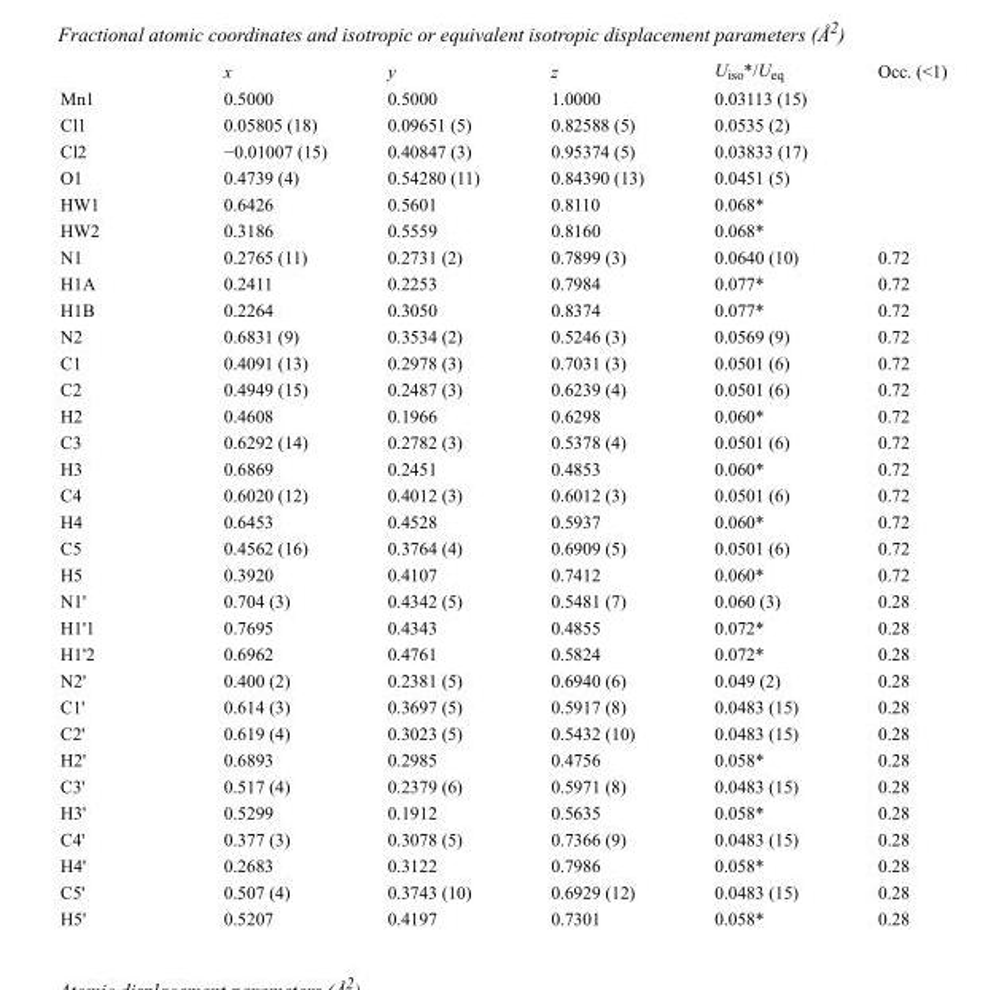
<table><thead><tr><td></td><td>x</td><td>y</td><td>z</td><td>U<sub>iso</sub>*/U<sub>eq</sub></td><td>Occ. (&lt;1)</td></tr></thead><tbody><tr><td>Mn1</td><td>0.5000</td><td>0.5000</td><td>1.0000</td><td>0.03113 (15)</td><td></td></tr><tr><td>Cl1</td><td>0.05805 (18)</td><td>0.09651 (5)</td><td>0.82588 (5)</td><td>0.0535 (2)</td><td></td></tr><tr><td>Cl2</td><td>−0.01007 (15)</td><td>0.40847 (3)</td><td>0.95374 (5)</td><td>0.03833 (17)</td><td></td></tr><tr><td>O1</td><td>0.4739 (4)</td><td>0.54280 (11)</td><td>0.84390 (13)</td><td>0.0451 (5)</td><td></td></tr><tr><td>HW1</td><td>0.6426</td><td>0.5601</td><td>0.8110</td><td>0.068*</td><td></td></tr><tr><td>HW2</td><td>0.3186</td><td>0.5559</td><td>0.8160</td><td>0.068*</td><td></td></tr><tr><td>N1</td><td>0.2765 (11)</td><td>0.2731 (2)</td><td>0.7899 (3)</td><td>0.0640 (10)</td><td>0.72</td></tr><tr><td>H1A</td><td>0.2411</td><td>0.2253</td><td>0.7984</td><td>0.077*</td><td>0.72</td></tr><tr><td>H1B</td><td>0.2264</td><td>0.3050</td><td>0.8374</td><td>0.077*</td><td>0.72</td></tr><tr><td>N2</td><td>0.6831 (9)</td><td>0.3534 (2)</td><td>0.5246 (3)</td><td>0.0569 (9)</td><td>0.72</td></tr><tr><td>C1</td><td>0.4091 (13)</td><td>0.2978 (3)</td><td>0.7031 (3)</td><td>0.0501 (6)</td><td>0.72</td></tr><tr><td>C2</td><td>0.4949 (15)</td><td>0.2487 (3)</td><td>0.6239 (4)</td><td>0.0501 (6)</td><td>0.72</td></tr><tr><td>H2</td><td>0.4608</td><td>0.1966</td><td>0.6298</td><td>0.060*</td><td>0.72</td></tr><tr><td>C3</td><td>0.6292 (14)</td><td>0.2782 (3)</td><td>0.5378 (4)</td><td>0.0501 (6)</td><td>0.72</td></tr><tr><td>H3</td><td>0.6869</td><td>0.2451</td><td>0.4853</td><td>0.060*</td><td>0.72</td></tr><tr><td>C4</td><td>0.6020 (12)</td><td>0.4012 (3)</td><td>0.6012 (3)</td><td>0.0501 (6)</td><td>0.72</td></tr><tr><td>H4</td><td>0.6453</td><td>0.4528</td><td>0.5937</td><td>0.060*</td><td>0.72</td></tr><tr><td>C5</td><td>0.4562 (16)</td><td>0.3764 (4)</td><td>0.6909 (5)</td><td>0.0501 (6)</td><td>0.72</td></tr><tr><td>H5</td><td>0.3920</td><td>0.4107</td><td>0.7412</td><td>0.060*</td><td>0.72</td></tr><tr><td>N1&#x27;</td><td>0.704 (3)</td><td>0.4342 (5)</td><td>0.5481 (7)</td><td>0.060 (3)</td><td>0.28</td></tr><tr><td>H1&#x27;1</td><td>0.7695</td><td>0.4343</td><td>0.4855</td><td>0.072*</td><td>0.28</td></tr><tr><td>H1&#x27;2</td><td>0.6962</td><td>0.4761</td><td>0.5824</td><td>0.072*</td><td>0.28</td></tr><tr><td>N2&#x27;</td><td>0.400 (2)</td><td>0.2381 (5)</td><td>0.6940 (6)</td><td>0.049 (2)</td><td>0.28</td></tr><tr><td>C1&#x27;</td><td>0.614 (3)</td><td>0.3697 (5)</td><td>0.5917 (8)</td><td>0.0483 (15)</td><td>0.28</td></tr><tr><td>C2&#x27;</td><td>0.619 (4)</td><td>0.3023 (5)</td><td>0.5432 (10)</td><td>0.0483 (15)</td><td>0.28</td></tr><tr><td>H2&#x27;</td><td>0.6893</td><td>0.2985</td><td>0.4756</td><td>0.058*</td><td>0.28</td></tr><tr><td>C3&#x27;</td><td>0.517 (4)</td><td>0.2379 (6)</td><td>0.5971 (8)</td><td>0.0483 (15)</td><td>0.28</td></tr><tr><td>H3&#x27;</td><td>0.5299</td><td>0.1912</td><td>0.5635</td><td>0.058*</td><td>0.28</td></tr><tr><td>C4&#x27;</td><td>0.377 (3)</td><td>0.3078 (5)</td><td>0.7366 (9)</td><td>0.0483 (15)</td><td>0.28</td></tr><tr><td>H4&#x27;</td><td>0.2683</td><td>0.3122</td><td>0.7986</td><td>0.058*</td><td>0.28</td></tr><tr><td>C5&#x27;</td><td>0.507 (4)</td><td>0.3743 (10)</td><td>0.6929 (12)</td><td>0.0483 (15)</td><td>0.28</td></tr><tr><td>H5&#x27;</td><td>0.5207</td><td>0.4197</td><td>0.7301</td><td>0.058*</td><td>0.28</td></tr></tbody></table>